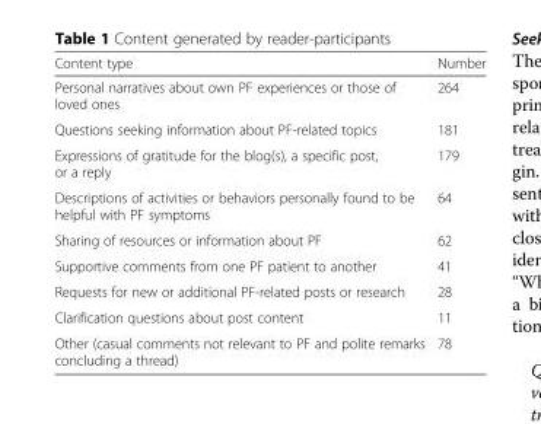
<table><thead><tr><td>Content type</td><td>Number</td></tr></thead><tbody><tr><td>Personal narratives about own PF experiences or those of loved ones</td><td>264</td></tr><tr><td>Questions seeking information about PF-related topics</td><td>181</td></tr><tr><td>Expressions of gratitude for the blog(s), a specific post, or a reply</td><td>179</td></tr><tr><td>Descriptions of activities or behaviors personally found to be helpful with PF symptoms</td><td>64</td></tr><tr><td>Sharing of resources or information about PF</td><td>62</td></tr><tr><td>Supportive comments from one PF patient to another</td><td>41</td></tr><tr><td>Requests for new or additional PF-related posts or research</td><td>28</td></tr><tr><td>Clarification questions about post content</td><td>11</td></tr><tr><td>Other (casual comments not relevant to PF and polite remarks concluding a thread)</td><td>78</td></tr></tbody></table>